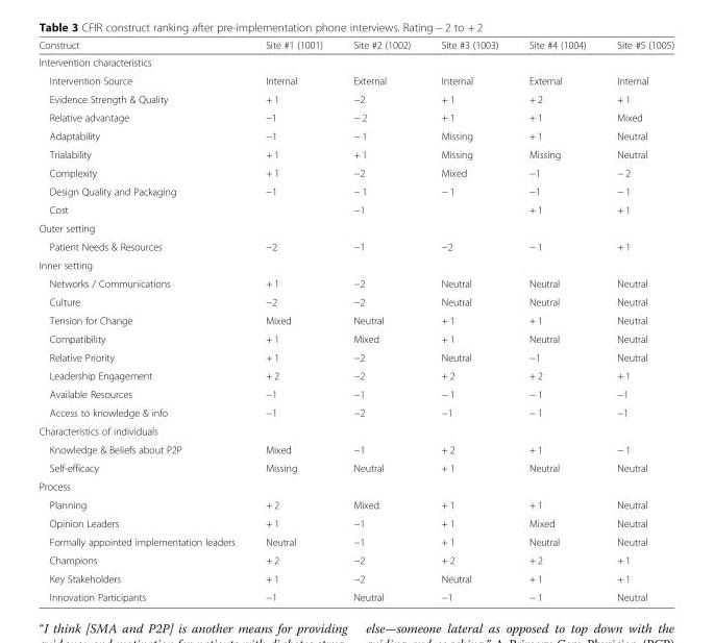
<table><thead><tr><td>Construct</td><td>Site #1 (1001)</td><td>Site #2 (1002)</td><td>Site #3 (1003)</td><td>Site #4 (1004)</td><td>Site #5 (1005)</td></tr></thead><tbody><tr><td colspan="6">Intervention characteristics</td></tr><tr><td>Intervention Source</td><td>Internal</td><td>External</td><td>Internal</td><td>External</td><td>Internal</td></tr><tr><td>Evidence Strength &amp; Quality</td><td>+ 1</td><td>−2</td><td>+ 1</td><td>+ 2</td><td>+ 1</td></tr><tr><td>Relative advantage</td><td>−1</td><td>− 2</td><td>+ 1</td><td>+ 1</td><td>Mixed</td></tr><tr><td>Adaptability</td><td>−1</td><td>− 1</td><td>Missing</td><td>+ 1</td><td>Neutral</td></tr><tr><td>Trialability</td><td>+ 1</td><td>+ 1</td><td>Missing</td><td>Missing</td><td>Neutral</td></tr><tr><td>Complexity</td><td>+ 1</td><td>−2</td><td>Mixed</td><td>−1</td><td>− 2</td></tr><tr><td>Design Quality and Packaging</td><td>−1</td><td>− 1</td><td>− 1</td><td>−1</td><td>− 1</td></tr><tr><td>Cost</td><td></td><td>−1</td><td></td><td>+ 1</td><td>+ 1</td></tr><tr><td colspan="6">Outer setting</td></tr><tr><td>Patient Needs &amp; Resources</td><td>−2</td><td>−1</td><td>−2</td><td>− 1</td><td>+ 1</td></tr><tr><td colspan="6">Inner setting</td></tr><tr><td>Networks / Communications</td><td>+ 1</td><td>−2</td><td>Neutral</td><td>Neutral</td><td>Neutral</td></tr><tr><td>Culture</td><td>−2</td><td>−2</td><td>Neutral</td><td>Neutral</td><td>Neutral</td></tr><tr><td>Tension for Change</td><td>Mixed</td><td>Neutral</td><td>+ 1</td><td>+ 1</td><td>Neutral</td></tr><tr><td>Compatibility</td><td>+ 1</td><td>Mixed</td><td>+ 1</td><td>Neutral</td><td>Neutral</td></tr><tr><td>Relative Priority</td><td>+ 1</td><td>−2</td><td>Neutral</td><td>−1</td><td>Neutral</td></tr><tr><td>Leadership Engagement</td><td>+ 2</td><td>−2</td><td>+ 2</td><td>+ 2</td><td>+ 1</td></tr><tr><td>Available Resources</td><td>−1</td><td>−1</td><td>− 1</td><td>− 1</td><td>−1</td></tr><tr><td>Access to knowledge &amp; info</td><td>−1</td><td>−2</td><td>−1</td><td>− 1</td><td>−1</td></tr><tr><td colspan="6">Characteristics of individuals</td></tr><tr><td>Knowledge &amp; Beliefs about P2P</td><td>Mixed</td><td>−1</td><td>+ 2</td><td>+ 1</td><td>− 1</td></tr><tr><td>Self-efficacy</td><td>Missing</td><td>Neutral</td><td>+ 1</td><td>Neutral</td><td>Neutral</td></tr><tr><td colspan="6">Process</td></tr><tr><td>Planning</td><td>+ 2</td><td>Mixed</td><td>+ 1</td><td>+ 1</td><td>Neutral</td></tr><tr><td>Opinion Leaders</td><td>+ 1</td><td>−1</td><td>+ 1</td><td>Mixed</td><td>Neutral</td></tr><tr><td>Formally appointed implementation leaders</td><td>Neutral</td><td>−1</td><td>+ 1</td><td>Neutral</td><td>Neutral</td></tr><tr><td>Champions</td><td>+ 2</td><td>−2</td><td>+ 2</td><td>+ 2</td><td>+ 1</td></tr><tr><td>Key Stakeholders</td><td>+ 1</td><td>−2</td><td>Neutral</td><td>+ 1</td><td>+ 1</td></tr><tr><td>Innovation Participants</td><td>−1</td><td>Neutral</td><td>−1</td><td>− 1</td><td>Neutral</td></tr></tbody></table>